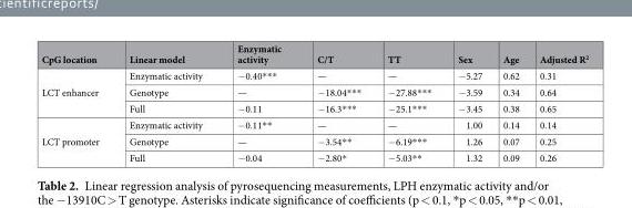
<table><thead><tr><td>CpG location</td><td>Linear model</td><td>Enzymatic activity</td><td>C/T</td><td>TT</td><td>Sex</td><td>Age</td><td>Adjusted R<sup>2</sup></td></tr></thead><tbody><tr><td rowspan="3">LCT enhancer</td><td>Enzymatic activity</td><td>−0.40***</td><td>—</td><td>—</td><td>−5.27</td><td>0.62</td><td>0.31</td></tr><tr><td>Genotype</td><td>—</td><td>−18.04***</td><td>−27.88***</td><td>−3.59</td><td>0.34</td><td>0.64</td></tr><tr><td>Full</td><td>−0.11</td><td>−16.3***</td><td>−25.1***</td><td>−3.45</td><td>0.38</td><td>0.65</td></tr><tr><td rowspan="3">LCT promoter</td><td>Enzymatic activity</td><td>−0.11**</td><td>—</td><td>—</td><td>1.00</td><td>0.14</td><td>0.14</td></tr><tr><td>Genotype</td><td>—</td><td>−3.54**</td><td>−6.19***</td><td>1.26</td><td>0.07</td><td>0.25</td></tr><tr><td>Full</td><td>−0.04</td><td>−2.80*</td><td>−5.03**</td><td>1.32</td><td>0.09</td><td>0.26</td></tr></tbody></table>